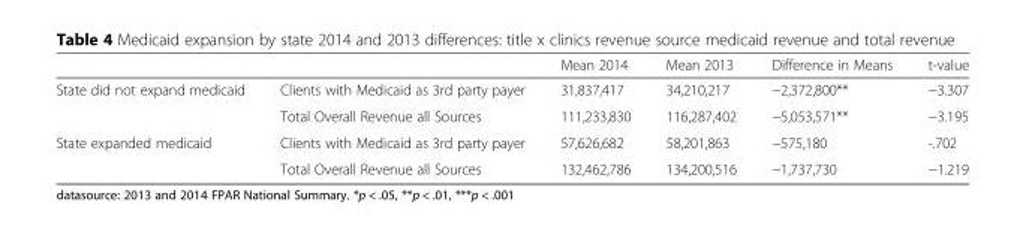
<table><thead><tr><td></td><td></td><td>Mean 2014</td><td>Mean 2013</td><td>Difference in Means</td><td>t-value</td></tr></thead><tbody><tr><td rowspan="2">State did not expand medicaid</td><td>Clients with Medicaid as 3rd party payer</td><td>31,837,417</td><td>34,210,217</td><td>−2,372,800**</td><td>−3.307</td></tr><tr><td>Total Overall Revenue all Sources</td><td>111,233,830</td><td>116,287,402</td><td>−5,053,571**</td><td>−3.195</td></tr><tr><td rowspan="2">State expanded medicaid</td><td>Clients with Medicaid as 3rd party payer</td><td>57,626,682</td><td>58,201,863</td><td>−575,180</td><td>-.702</td></tr><tr><td>Total Overall Revenue all Sources</td><td>132,462,786</td><td>134,200,516</td><td>−1,737,730</td><td>−1.219</td></tr></tbody></table>